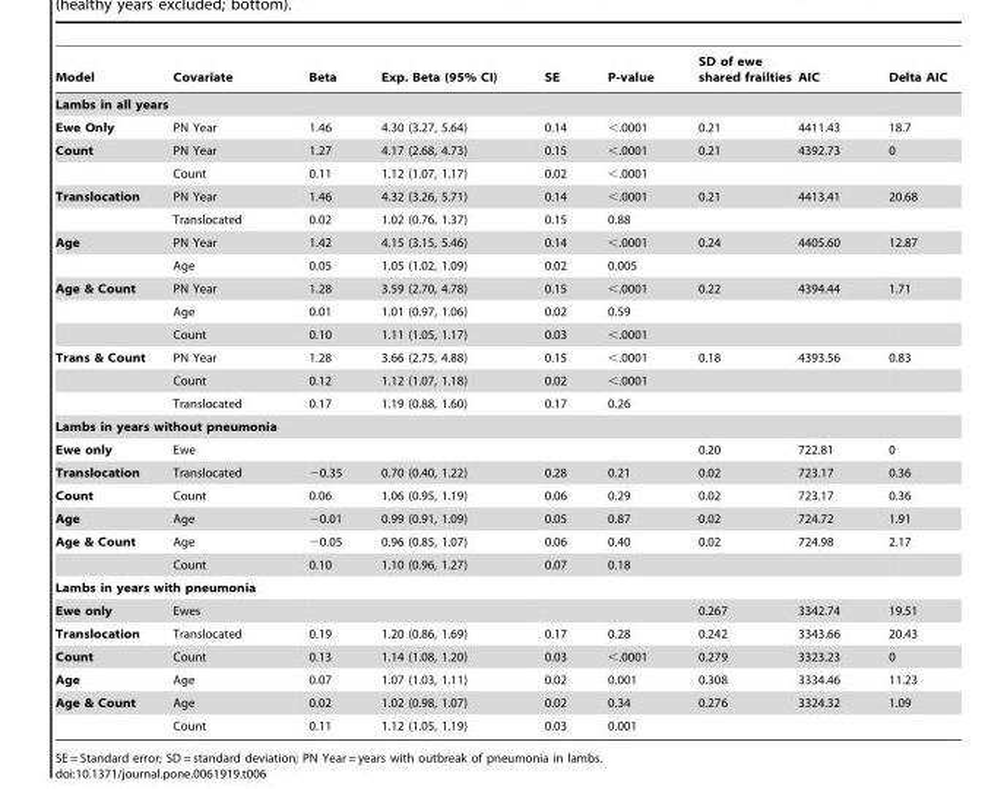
<table><thead><tr><td>Model</td><td>Covariate</td><td>Beta</td><td>Exp. Beta (95% CI)</td><td>SE</td><td>P-value</td><td>SD of ewe shared frailties</td><td>AIC</td><td>Delta AIC</td></tr></thead><tbody><tr><td colspan="9">Lambs in all years</td></tr><tr><td>Ewe Only</td><td>PN Year</td><td>1.46</td><td>4.30 (3.27, 5.64)</td><td>0.14</td><td>&lt;.0001</td><td>0.21</td><td>4411.43</td><td>18.7</td></tr><tr><td rowspan="2">Count</td><td>PN Year</td><td>1.27</td><td>4.17 (2.68, 4.73)</td><td>0.15</td><td>&lt;.0001</td><td>0.21</td><td>4392.73</td><td>0</td></tr><tr><td>Count</td><td>0.11</td><td>1.12 (1.07, 1.17)</td><td>0.02</td><td>&lt;.0001</td><td></td><td></td><td></td></tr><tr><td rowspan="2">Translocation</td><td>PN Year</td><td>1.46</td><td>4.32 (3.26, 5.71)</td><td>0.14</td><td>&lt;.0001</td><td>0.21</td><td>4413.41</td><td>20.68</td></tr><tr><td>Translocated</td><td>0.02</td><td>1.02 (0.76, 1.37)</td><td>0.15</td><td>0.88</td><td></td><td></td><td></td></tr><tr><td rowspan="2">Age</td><td>PN Year</td><td>1.42</td><td>4.15 (3.15, 5.46)</td><td>0.14</td><td>&lt;.0001</td><td>0.24</td><td>4405.60</td><td>12.87</td></tr><tr><td>Age</td><td>0.05</td><td>1.05 (1.02, 1.09)</td><td>0.02</td><td>0.005</td><td></td><td></td><td></td></tr><tr><td rowspan="3">Age &amp; Count</td><td>PN Year</td><td>1.28</td><td>3.59 (2.70, 4.78)</td><td>0.15</td><td>&lt;.0001</td><td>0.22</td><td>4394.44</td><td>1.71</td></tr><tr><td>Age</td><td>0.01</td><td>1.01 (0.97, 1.06)</td><td>0.02</td><td>0.59</td><td></td><td></td><td></td></tr><tr><td>Count</td><td>0.10</td><td>1.11 (1.05, 1.17)</td><td>0.03</td><td>&lt;.0001</td><td></td><td></td><td></td></tr><tr><td rowspan="3">Trans &amp; Count</td><td>PN Year</td><td>1.28</td><td>3.66 (2.75, 4.88)</td><td>0.15</td><td>&lt;.0001</td><td>0.18</td><td>4393.56</td><td>0.83</td></tr><tr><td>Count</td><td>0.12</td><td>1.12 (1.07, 1.18)</td><td>0.02</td><td>&lt;.0001</td><td></td><td></td><td></td></tr><tr><td>Translocated</td><td>0.17</td><td>1.19 (0.88, 1.60)</td><td>0.17</td><td>0.26</td><td></td><td></td><td></td></tr><tr><td colspan="9">Lambs in years without pneumonia</td></tr><tr><td>Ewe only</td><td>Ewe</td><td></td><td></td><td></td><td></td><td>0.20</td><td>722.81</td><td>0</td></tr><tr><td>Translocation</td><td>Translocated</td><td>−0.35</td><td>0.70 (0.40, 1.22)</td><td>0.28</td><td>0.21</td><td>0.02</td><td>723.17</td><td>0.36</td></tr><tr><td>Count</td><td>Count</td><td>0.06</td><td>1.06 (0.95, 1.19)</td><td>0.06</td><td>0.29</td><td>0.02</td><td>723.17</td><td>0.36</td></tr><tr><td>Age</td><td>Age</td><td>−0.01</td><td>0.99 (0.91, 1.09)</td><td>0.05</td><td>0.87</td><td>0.02</td><td>724.72</td><td>1.91</td></tr><tr><td rowspan="2">Age &amp; Count</td><td>Age</td><td>−0.05</td><td>0.96 (0.85, 1.07)</td><td>0.06</td><td>0.40</td><td>0.02</td><td>724.98</td><td>2.17</td></tr><tr><td>Count</td><td>0.10</td><td>1.10 (0.96, 1.27)</td><td>0.07</td><td>0.18</td><td></td><td></td><td></td></tr><tr><td colspan="9">Lambs in years with pneumonia</td></tr><tr><td>Ewe only</td><td>Ewes</td><td></td><td></td><td></td><td></td><td>0.267</td><td>3342.74</td><td>19.51</td></tr><tr><td>Translocation</td><td>Translocated</td><td>0.19</td><td>1.20 (0.86, 1.69)</td><td>0.17</td><td>0.28</td><td>0.242</td><td>3343.66</td><td>20.43</td></tr><tr><td>Count</td><td>Count</td><td>0.13</td><td>1.14 (1.08, 1.20)</td><td>0.03</td><td>&lt;.0001</td><td>0.279</td><td>3323.23</td><td>0</td></tr><tr><td>Age</td><td>Age</td><td>0.07</td><td>1.07 (1.03, 1.11)</td><td>0.02</td><td>0.001</td><td>0.308</td><td>3334.46</td><td>11.23</td></tr><tr><td rowspan="2">Age &amp; Count</td><td>Age</td><td>0.02</td><td>1.02 (0.98, 1.07)</td><td>0.02</td><td>0.34</td><td>0.276</td><td>3324.32</td><td>1.09</td></tr><tr><td>Count</td><td>0.11</td><td>1.12 (1.05, 1.19)</td><td>0.03</td><td>0.001</td><td></td><td></td><td></td></tr></tbody></table>